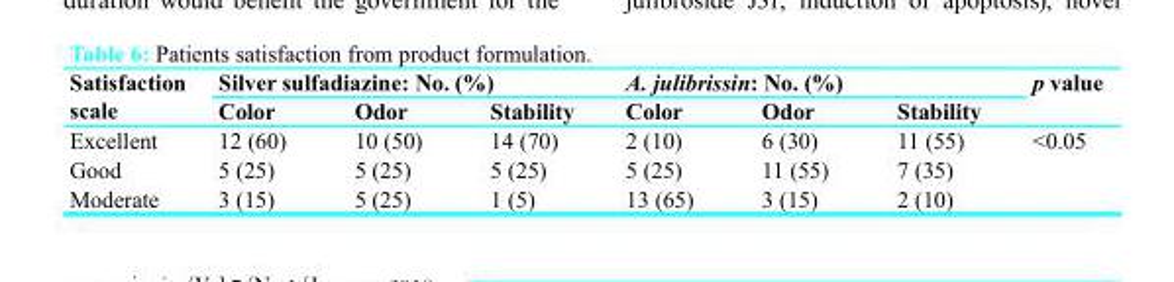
<table><thead><tr><td rowspan="2">Satisfaction scale</td><td colspan="3">Silver sulfadiazine: No. (%)</td><td colspan="3">A. julibrissin: No. (%)</td><td rowspan="2">p value</td></tr><tr><td>Color</td><td>Odor</td><td>Stability</td><td>Color</td><td>Odor</td><td>Stability</td></tr></thead><tbody><tr><td>Excellent</td><td>12 (60)</td><td>10 (50)</td><td>14 (70)</td><td>2 (10)</td><td>6 (30)</td><td>11 (55)</td><td rowspan="3">&lt;0.05</td></tr><tr><td>Good</td><td>5 (25)</td><td>5 (25)</td><td>5 (25)</td><td>5 (25)</td><td>11 (55)</td><td>7 (35)</td></tr><tr><td>Moderate</td><td>3 (15)</td><td>5 (25)</td><td>1 (5)</td><td>13 (65)</td><td>3 (15)</td><td>2 (10)</td></tr></tbody></table>